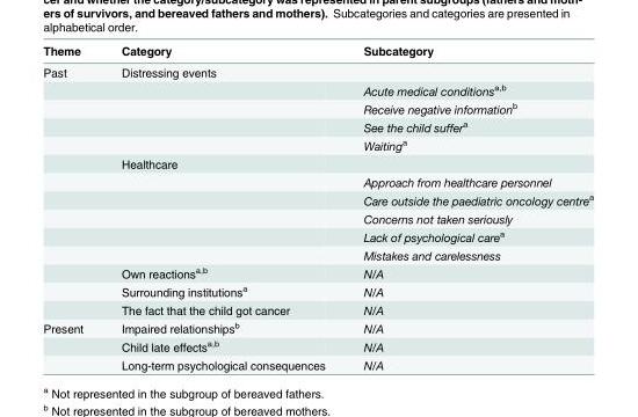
<table><thead><tr><td>Theme</td><td>Category</td><td>Subcategory</td></tr></thead><tbody><tr><td rowspan="14">Past</td><td>Distressing events</td><td></td></tr><tr><td></td><td>Acute medical conditions<sup>a,b</sup></td></tr><tr><td></td><td>Receive negative information<sup>b</sup></td></tr><tr><td></td><td>See the child suffer<sup>a</sup></td></tr><tr><td></td><td>Waiting<sup>a</sup></td></tr><tr><td>Healthcare</td><td></td></tr><tr><td></td><td>Approach from healthcare personnel</td></tr><tr><td></td><td>Care outside the paediatric oncology centre<sup>a</sup></td></tr><tr><td></td><td>Concerns not taken seriously</td></tr><tr><td></td><td>Lack of psychological care<sup>a</sup></td></tr><tr><td></td><td>Mistakes and carelessness</td></tr><tr><td>Own reactions<sup>a,b</sup></td><td>N/A</td></tr><tr><td>Surrounding institutions<sup>a</sup></td><td>N/A</td></tr><tr><td>The fact that the child got cancer</td><td>N/A</td></tr><tr><td rowspan="3">Present</td><td>Impaired relationships<sup>b</sup></td><td>N/A</td></tr><tr><td>Child late effects<sup>a,b</sup></td><td>N/A</td></tr><tr><td>Long-term psychological consequences</td><td>N/A</td></tr></tbody></table>